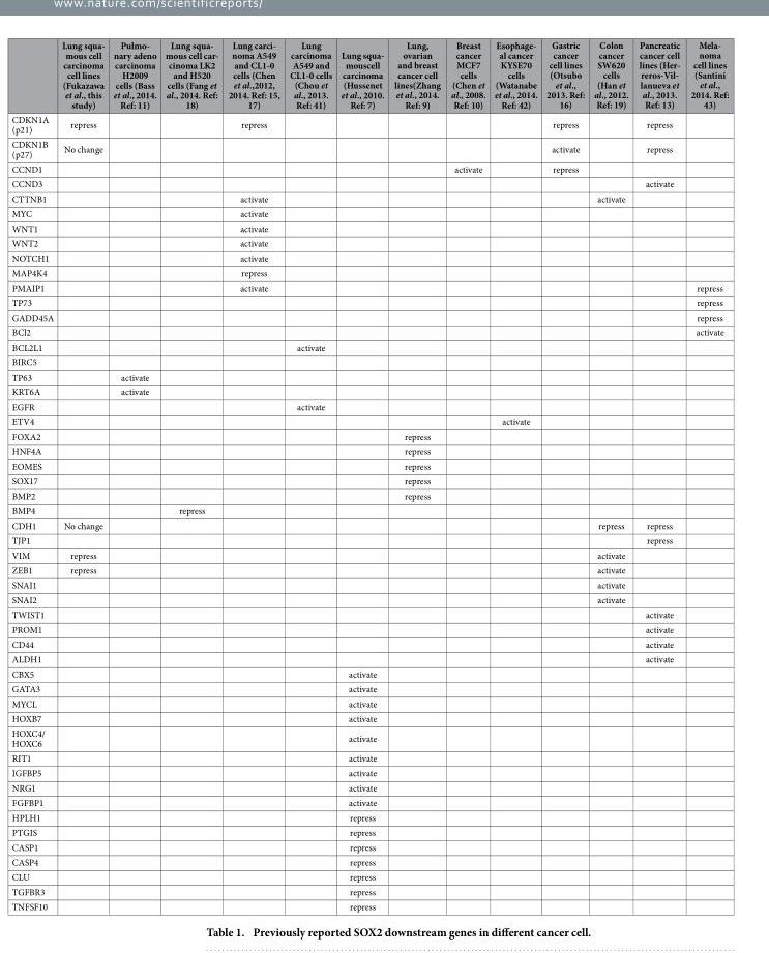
<table><thead><tr><td></td><td>Lung squa- mous cell carcinoma cell lines (Fukazawa et al., this study)</td><td>Pulmo- nary adeno carcinoma H2009 cells (Bass et al., 2014. Ref: 11)</td><td>Lung squa- mous cell car- cinoma LK2 and H520 cells (Fang et al., 2014. Ref: 18)</td><td>Lung carci- noma A549 and CL1-0 cells (Chen et al.,2012, 2014. Ref: 15, 17)</td><td>Lung carcinoma A549 and CL1-0 cells (Chou et al., 2013. Ref: 41)</td><td>Lung squa- mouscell carcinoma (Hussenet et al., 2010. Ref: 7)</td><td>Lung, ovarian and breast cancer cell lines(Zhang et al., 2014. Ref: 9)</td><td>Breast cancer MCF7 cells (Chen et al., 2008. Ref: 10)</td><td>Esophage- al cancer KYSE70 cells (Watanabe et al., 2014. Ref: 42)</td><td>Gastric cancer cell lines (Otsubo et al., 2013. Ref: 16)</td><td>Colon cancer SW620 cells (Han et al., 2012. Ref: 19)</td><td>Pancreatic cancer cell lines (Her- reros-Vil- lanueva et al., 2013. Ref: 13)</td><td>Mela- noma cell lines (Santini et al., 2014. Ref: 43)</td></tr></thead><tbody><tr><td>CDKN1A (p21)</td><td>repress</td><td></td><td></td><td>repress</td><td></td><td></td><td></td><td></td><td></td><td>repress</td><td></td><td>repress</td><td></td></tr><tr><td>CDKN1B (p27)</td><td>No change</td><td></td><td></td><td></td><td></td><td></td><td></td><td></td><td></td><td>activate</td><td></td><td>repress</td><td></td></tr><tr><td>CCND1</td><td></td><td></td><td></td><td></td><td></td><td></td><td></td><td>activate</td><td></td><td>repress</td><td></td><td></td><td></td></tr><tr><td>CCND3</td><td></td><td></td><td></td><td></td><td></td><td></td><td></td><td></td><td></td><td></td><td></td><td>activate</td><td></td></tr><tr><td>CTTNB1</td><td></td><td></td><td></td><td>activate</td><td></td><td></td><td></td><td></td><td></td><td></td><td>activate</td><td></td><td></td></tr><tr><td>MYC</td><td></td><td></td><td></td><td>activate</td><td></td><td></td><td></td><td></td><td></td><td></td><td></td><td></td><td></td></tr><tr><td>WNT1</td><td></td><td></td><td></td><td>activate</td><td></td><td></td><td></td><td></td><td></td><td></td><td></td><td></td><td></td></tr><tr><td>WNT2</td><td></td><td></td><td></td><td>activate</td><td></td><td></td><td></td><td></td><td></td><td></td><td></td><td></td><td></td></tr><tr><td>NOTCH1</td><td></td><td></td><td></td><td>activate</td><td></td><td></td><td></td><td></td><td></td><td></td><td></td><td></td><td></td></tr><tr><td>MAP4K4</td><td></td><td></td><td></td><td>repress</td><td></td><td></td><td></td><td></td><td></td><td></td><td></td><td></td><td></td></tr><tr><td>PMAIP1</td><td></td><td></td><td></td><td>activate</td><td></td><td></td><td></td><td></td><td></td><td></td><td></td><td></td><td>repress</td></tr><tr><td>TP73</td><td></td><td></td><td></td><td></td><td></td><td></td><td></td><td></td><td></td><td></td><td></td><td></td><td>repress</td></tr><tr><td>GADD45A</td><td></td><td></td><td></td><td></td><td></td><td></td><td></td><td></td><td></td><td></td><td></td><td></td><td>repress</td></tr><tr><td>BCl2</td><td></td><td></td><td></td><td></td><td></td><td></td><td></td><td></td><td></td><td></td><td></td><td></td><td>activate</td></tr><tr><td>BCL2L1</td><td></td><td></td><td></td><td></td><td>activate</td><td></td><td></td><td></td><td></td><td></td><td></td><td></td><td></td></tr><tr><td colspan="14">BIRC5</td></tr><tr><td>TP63</td><td></td><td>activate</td><td></td><td></td><td></td><td></td><td></td><td></td><td></td><td></td><td></td><td></td><td></td></tr><tr><td>KRT6A</td><td></td><td>activate</td><td></td><td></td><td></td><td></td><td></td><td></td><td></td><td></td><td></td><td></td><td></td></tr><tr><td>EGFR</td><td></td><td></td><td></td><td></td><td>activate</td><td></td><td></td><td></td><td></td><td></td><td></td><td></td><td></td></tr><tr><td>ETV4</td><td></td><td></td><td></td><td></td><td></td><td></td><td></td><td></td><td>activate</td><td></td><td></td><td></td><td></td></tr><tr><td>FOXA2</td><td></td><td></td><td></td><td></td><td></td><td></td><td>repress</td><td></td><td></td><td></td><td></td><td></td><td></td></tr><tr><td>HNF4A</td><td></td><td></td><td></td><td></td><td></td><td></td><td>repress</td><td></td><td></td><td></td><td></td><td></td><td></td></tr><tr><td>EOMES</td><td></td><td></td><td></td><td></td><td></td><td></td><td>repress</td><td></td><td></td><td></td><td></td><td></td><td></td></tr><tr><td>SOX17</td><td></td><td></td><td></td><td></td><td></td><td></td><td>repress</td><td></td><td></td><td></td><td></td><td></td><td></td></tr><tr><td>BMP2</td><td></td><td></td><td></td><td></td><td></td><td></td><td>repress</td><td></td><td></td><td></td><td></td><td></td><td></td></tr><tr><td>BMP4</td><td></td><td></td><td>repress</td><td></td><td></td><td></td><td></td><td></td><td></td><td></td><td></td><td></td><td></td></tr><tr><td>CDH1</td><td>No change</td><td></td><td></td><td></td><td></td><td></td><td></td><td></td><td></td><td></td><td>repress</td><td>repress</td><td></td></tr><tr><td>TJP1</td><td></td><td></td><td></td><td></td><td></td><td></td><td></td><td></td><td></td><td></td><td></td><td>repress</td><td></td></tr><tr><td>VIM</td><td>repress</td><td></td><td></td><td></td><td></td><td></td><td></td><td></td><td></td><td></td><td>activate</td><td></td><td></td></tr><tr><td>ZEB1</td><td>repress</td><td></td><td></td><td></td><td></td><td></td><td></td><td></td><td></td><td></td><td>activate</td><td></td><td></td></tr><tr><td>SNAI1</td><td></td><td></td><td></td><td></td><td></td><td></td><td></td><td></td><td></td><td></td><td>activate</td><td></td><td></td></tr><tr><td>SNAI2</td><td></td><td></td><td></td><td></td><td></td><td></td><td></td><td></td><td></td><td></td><td>activate</td><td></td><td></td></tr><tr><td>TWIST1</td><td></td><td></td><td></td><td></td><td></td><td></td><td></td><td></td><td></td><td></td><td></td><td>activate</td><td></td></tr><tr><td>PROM1</td><td></td><td></td><td></td><td></td><td></td><td></td><td></td><td></td><td></td><td></td><td></td><td>activate</td><td></td></tr><tr><td>CD44</td><td></td><td></td><td></td><td></td><td></td><td></td><td></td><td></td><td></td><td></td><td></td><td>activate</td><td></td></tr><tr><td>ALDH1</td><td></td><td></td><td></td><td></td><td></td><td></td><td></td><td></td><td></td><td></td><td></td><td>activate</td><td></td></tr><tr><td>CBX5</td><td></td><td></td><td></td><td></td><td></td><td>activate</td><td></td><td></td><td></td><td></td><td></td><td></td><td></td></tr><tr><td>GATA3</td><td></td><td></td><td></td><td></td><td></td><td>activate</td><td></td><td></td><td></td><td></td><td></td><td></td><td></td></tr><tr><td>MYCL</td><td></td><td></td><td></td><td></td><td></td><td>activate</td><td></td><td></td><td></td><td></td><td></td><td></td><td></td></tr><tr><td>HOXB7</td><td></td><td></td><td></td><td></td><td></td><td>activate</td><td></td><td></td><td></td><td></td><td></td><td></td><td></td></tr><tr><td>HOXC4/ HOXC6</td><td></td><td></td><td></td><td></td><td></td><td>activate</td><td></td><td></td><td></td><td></td><td></td><td></td><td></td></tr><tr><td>RIT1</td><td></td><td></td><td></td><td></td><td></td><td>activate</td><td></td><td></td><td></td><td></td><td></td><td></td><td></td></tr><tr><td>IGFBP5</td><td></td><td></td><td></td><td></td><td></td><td>activate</td><td></td><td></td><td></td><td></td><td></td><td></td><td></td></tr><tr><td>NRG1</td><td></td><td></td><td></td><td></td><td></td><td>activate</td><td></td><td></td><td></td><td></td><td></td><td></td><td></td></tr><tr><td>FGFBP1</td><td></td><td></td><td></td><td></td><td></td><td>activate</td><td></td><td></td><td></td><td></td><td></td><td></td><td></td></tr><tr><td>HPLH1</td><td></td><td></td><td></td><td></td><td></td><td>repress</td><td></td><td></td><td></td><td></td><td></td><td></td><td></td></tr><tr><td>PTGIS</td><td></td><td></td><td></td><td></td><td></td><td>repress</td><td></td><td></td><td></td><td></td><td></td><td></td><td></td></tr><tr><td>CASP1</td><td></td><td></td><td></td><td></td><td></td><td>repress</td><td></td><td></td><td></td><td></td><td></td><td></td><td></td></tr><tr><td>CASP4</td><td></td><td></td><td></td><td></td><td></td><td>repress</td><td></td><td></td><td></td><td></td><td></td><td></td><td></td></tr><tr><td>CLU</td><td></td><td></td><td></td><td></td><td></td><td>repress</td><td></td><td></td><td></td><td></td><td></td><td></td><td></td></tr><tr><td>TGFBR3</td><td></td><td></td><td></td><td></td><td></td><td>repress</td><td></td><td></td><td></td><td></td><td></td><td></td><td></td></tr><tr><td>TNFSF10</td><td></td><td></td><td></td><td></td><td></td><td>repress</td><td></td><td></td><td></td><td></td><td></td><td></td><td></td></tr></tbody></table>